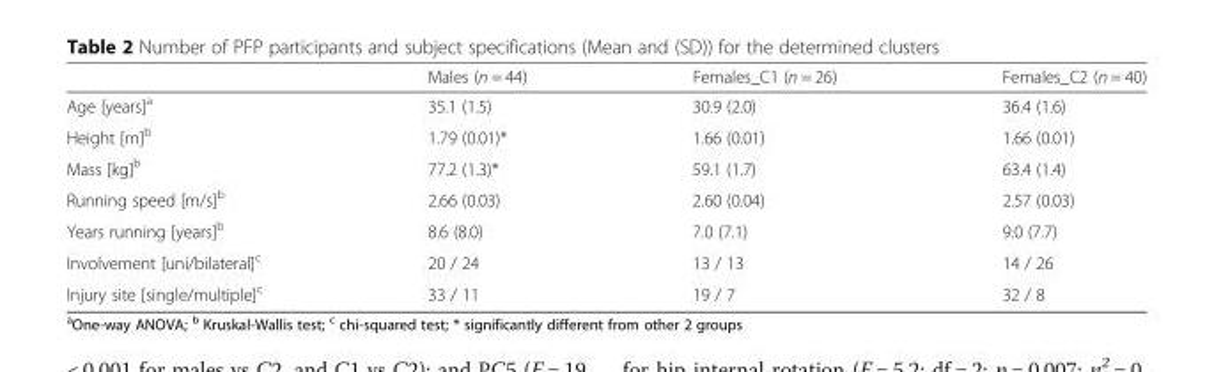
<table><thead><tr><td></td><td>Males (n = 44)</td><td>Females_C1 (n = 26)</td><td>Females_C2 (n = 40)</td></tr></thead><tbody><tr><td>Age [years]<sup>a</sup></td><td>35.1 (1.5)</td><td>30.9 (2.0)</td><td>36.4 (1.6)</td></tr><tr><td>Height [m]<sup>b</sup></td><td>1.79 (0.01)*</td><td>1.66 (0.01)</td><td>1.66 (0.01)</td></tr><tr><td>Mass [kg]<sup>b</sup></td><td>77.2 (1.3)*</td><td>59.1 (1.7)</td><td>63.4 (1.4)</td></tr><tr><td>Running speed [m/s]<sup>b</sup></td><td>2.66 (0.03)</td><td>2.60 (0.04)</td><td>2.57 (0.03)</td></tr><tr><td>Years running [years]<sup>b</sup></td><td>8.6 (8.0)</td><td>7.0 (7.1)</td><td>9.0 (7.7)</td></tr><tr><td>Involvement [uni/bilateral]<sup>c</sup></td><td>20 / 24</td><td>13 / 13</td><td>14 / 26</td></tr><tr><td>Injury site [single/multiple]<sup>c</sup></td><td>33 / 11</td><td>19 / 7</td><td>32 / 8</td></tr></tbody></table>